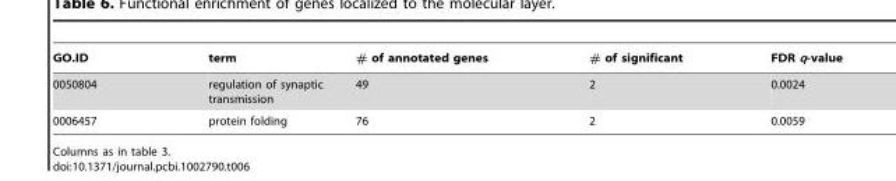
<table><thead><tr><td>GO.ID</td><td>term</td><td># of annotated genes</td><td># of significant</td><td>FDR q-value</td></tr></thead><tbody><tr><td>0050804</td><td>regulation of synaptic transmission</td><td>49</td><td>2</td><td>0.0024</td></tr><tr><td>0006457</td><td>protein folding</td><td>76</td><td>2</td><td>0.0059</td></tr></tbody></table>